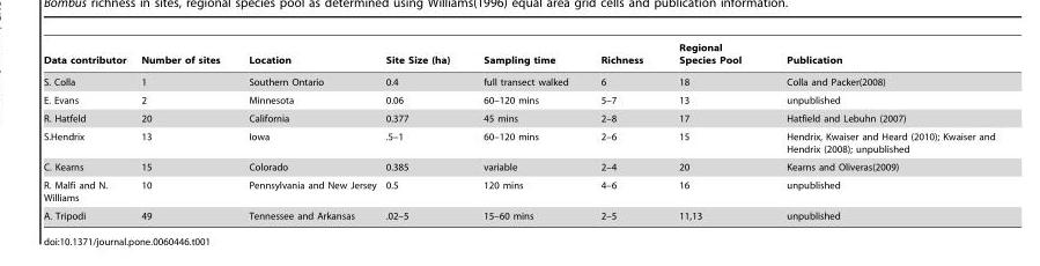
<table><thead><tr><td>Data contributor</td><td>Number of sites</td><td>Location</td><td>Site Size (ha)</td><td>Sampling time</td><td>Richness</td><td>Regional Species Pool</td><td>Publication</td></tr></thead><tbody><tr><td>S. Colla</td><td>1</td><td>Southern Ontario</td><td>0.4</td><td>full transect walked</td><td>6</td><td>18</td><td>Colla and Packer(2008)</td></tr><tr><td>E. Evans</td><td>2</td><td>Minnesota</td><td>0.06</td><td>60–120 mins</td><td>5–7</td><td>13</td><td>unpublished</td></tr><tr><td>R. Hatfeld</td><td>20</td><td>California</td><td>0.377</td><td>45 mins</td><td>2–8</td><td>17</td><td>Hatfield and Lebuhn (2007)</td></tr><tr><td>S.Hendrix</td><td>13</td><td>Iowa</td><td>.5–1</td><td>60–120 mins</td><td>2–6</td><td>15</td><td>Hendrix, Kwaiser and Heard (2010); Kwaiser and Hendrix (2008); unpublished</td></tr><tr><td>C. Kearns</td><td>15</td><td>Colorado</td><td>0.385</td><td>variable</td><td>2–4</td><td>20</td><td>Kearns and Oliveras(2009)</td></tr><tr><td>R. Malfi and N. Williams</td><td>10</td><td>Pennsylvania and New Jersey</td><td>0.5</td><td>120 mins</td><td>4–6</td><td>16</td><td>unpublished</td></tr><tr><td>A. Tripodi</td><td>49</td><td>Tennessee and Arkansas</td><td>.02–5</td><td>15–60 mins</td><td>2–5</td><td>11,13</td><td>unpublished</td></tr></tbody></table>